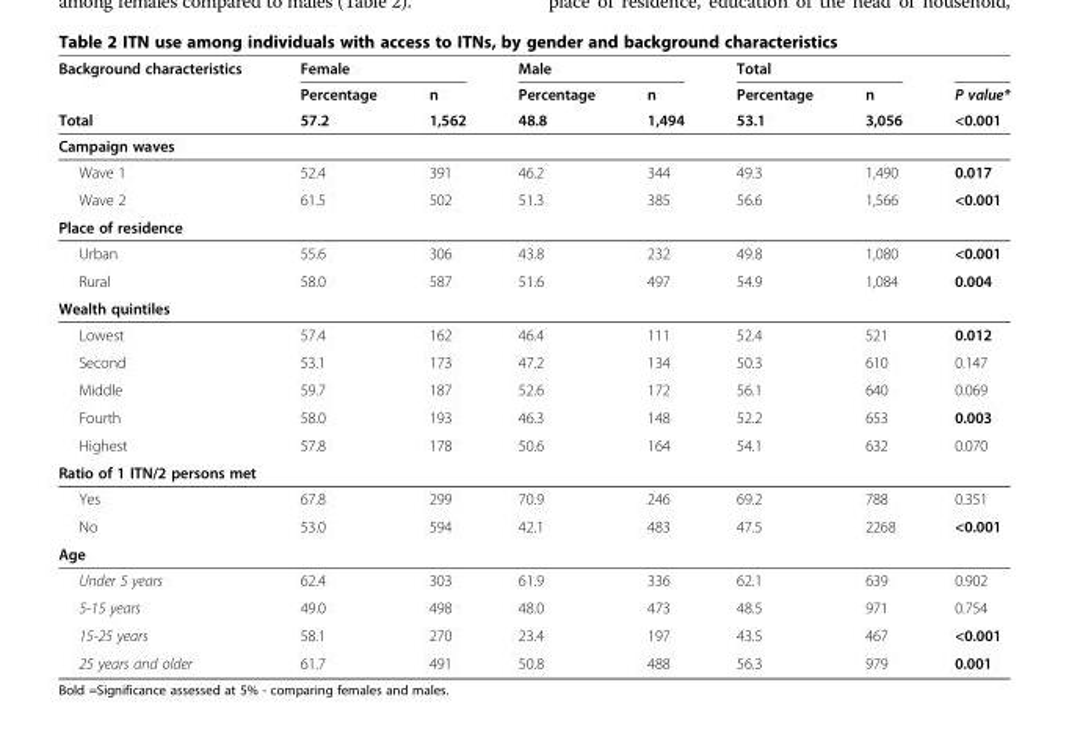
<table><thead><tr><td rowspan="3">Background characteristics Total</td><td colspan="2">Female</td><td colspan="2">Male</td><td colspan="2">Total</td><td rowspan="3">P value* &lt;0.001</td></tr><tr><td rowspan="2">Percentage 57.2</td><td rowspan="2">n 1,562</td><td rowspan="2">Percentage 48.8</td><td rowspan="2">n 1,494</td><td rowspan="2">Percentage 53.1</td><td rowspan="2">n 3,056</td></tr><tr></tr></thead><tbody><tr><td colspan="8">Campaign waves</td></tr><tr><td>Wave 1</td><td>52.4</td><td>391</td><td>46.2</td><td>344</td><td>49.3</td><td>1,490</td><td>0.017</td></tr><tr><td>Wave 2</td><td>61.5</td><td>502</td><td>51.3</td><td>385</td><td>56.6</td><td>1,566</td><td>&lt;0.001</td></tr><tr><td colspan="8">Place of residence</td></tr><tr><td>Urban</td><td>55.6</td><td>306</td><td>43.8</td><td>232</td><td>49.8</td><td>1,080</td><td>&lt;0.001</td></tr><tr><td>Rural</td><td>58.0</td><td>587</td><td>51.6</td><td>497</td><td>54.9</td><td>1,084</td><td>0.004</td></tr><tr><td colspan="8">Wealth quintiles</td></tr><tr><td>Lowest</td><td>57.4</td><td>162</td><td>46.4</td><td>111</td><td>52.4</td><td>521</td><td>0.012</td></tr><tr><td>Second</td><td>53.1</td><td>173</td><td>47.2</td><td>134</td><td>50.3</td><td>610</td><td>0.147</td></tr><tr><td>Middle</td><td>59.7</td><td>187</td><td>52.6</td><td>172</td><td>56.1</td><td>640</td><td>0.069</td></tr><tr><td>Fourth</td><td>58.0</td><td>193</td><td>46.3</td><td>148</td><td>52.2</td><td>653</td><td>0.003</td></tr><tr><td>Highest</td><td>57.8</td><td>178</td><td>50.6</td><td>164</td><td>54.1</td><td>632</td><td>0.070</td></tr><tr><td colspan="8">Ratio of 1 ITN/2 persons met</td></tr><tr><td>Yes</td><td>67.8</td><td>299</td><td>70.9</td><td>246</td><td>69.2</td><td>788</td><td>0.351</td></tr><tr><td>No</td><td>53.0</td><td>594</td><td>42.1</td><td>483</td><td>47.5</td><td>2268</td><td>&lt;0.001</td></tr><tr><td colspan="8">Age</td></tr><tr><td>Under 5 years</td><td>62.4</td><td>303</td><td>61.9</td><td>336</td><td>62.1</td><td>639</td><td>0.902</td></tr><tr><td>5-15 years</td><td>49.0</td><td>498</td><td>48.0</td><td>473</td><td>48.5</td><td>971</td><td>0.754</td></tr><tr><td>15-25 years</td><td>58.1</td><td>270</td><td>23.4</td><td>197</td><td>43.5</td><td>467</td><td>&lt;0.001</td></tr><tr><td>25 years and older</td><td>61.7</td><td>491</td><td>50.8</td><td>488</td><td>56.3</td><td>979</td><td>0.001</td></tr></tbody></table>